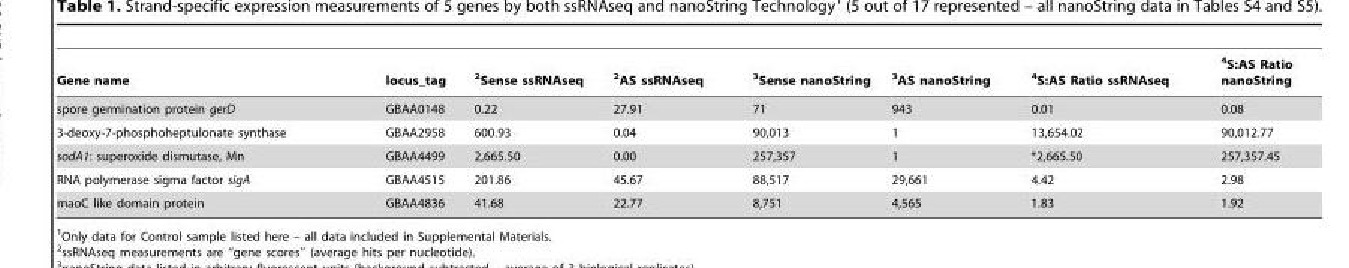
<table><thead><tr><td>Gene name</td><td>locus_tag</td><td>2Sense ssRNAseq</td><td>2AS ssRNAseq</td><td>3Sense nanoString</td><td>3AS nanoString</td><td>4S:AS Ratio ssRNAseq</td><td>4S:AS Ratio nanoString</td></tr></thead><tbody><tr><td>spore germination protein gerD</td><td>GBAA0148</td><td>0.22</td><td>27.91</td><td>71</td><td>943</td><td>0.01</td><td>0.08</td></tr><tr><td>3-deoxy-7-phosphoheptulonate synthase</td><td>GBAA2958</td><td>600.93</td><td>0.04</td><td>90,013</td><td>1</td><td>13,654.02</td><td>90,012.77</td></tr><tr><td>sodA1: superoxide dismutase, Mn</td><td>GBAA4499</td><td>2,665.50</td><td>0.00</td><td>257,357</td><td>1</td><td>*2,665.50</td><td>257,357.45</td></tr><tr><td>RNA polymerase sigma factor sigA</td><td>GBAA4515</td><td>201.86</td><td>45.67</td><td>88,517</td><td>29,661</td><td>4.42</td><td>2.98</td></tr><tr><td>maoC like domain protein</td><td>GBAA4836</td><td>41.68</td><td>22.77</td><td>8,751</td><td>4,565</td><td>1.83</td><td>1.92</td></tr></tbody></table>